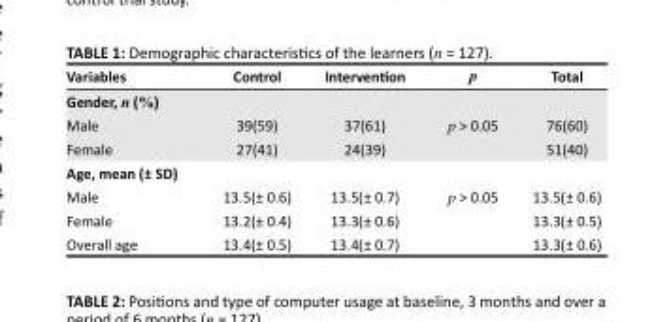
<table><thead><tr><td>Variables</td><td>Control</td><td>Intervention</td><td>p</td><td>Total</td></tr></thead><tbody><tr><td colspan="5">Gender, n (%)</td></tr><tr><td>Male</td><td>39(59)</td><td>37(61)</td><td rowspan="2">p &gt; 0.05</td><td>76(60)</td></tr><tr><td>Female</td><td>27(41)</td><td>24(39)</td><td>51(40)</td></tr><tr><td colspan="5">Age, mean (± SD)</td></tr><tr><td>Male</td><td>13.5(± 0.6)</td><td>13.5(± 0.7)</td><td rowspan="3">p &gt; 0.05</td><td>13.5(± 0.6)</td></tr><tr><td>Female</td><td>13.2(± 0.4)</td><td>13.3(± 0.6)</td><td>13.3(± 0.5)</td></tr><tr><td>Overall age</td><td>13.4(± 0.5)</td><td>13.4(± 0.7)</td><td>13.3(± 0.6)</td></tr></tbody></table>